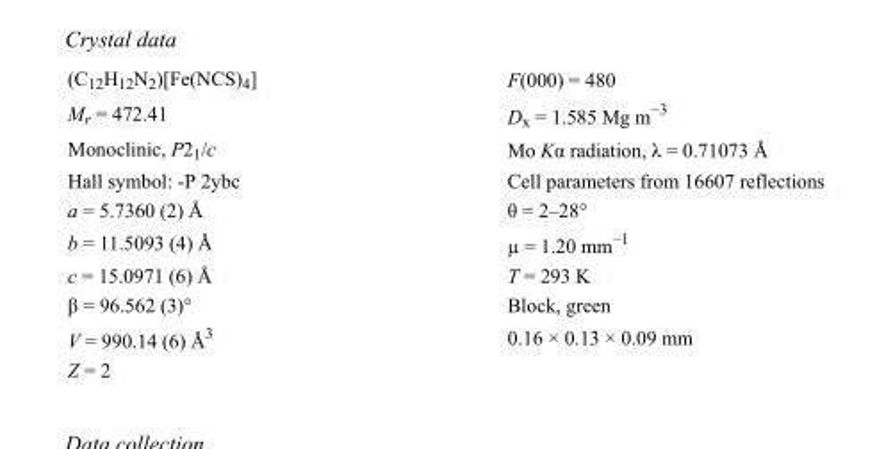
<table><tbody><tr><td>(C<sub>12</sub>H<sub>12</sub>N<sub>2</sub>)[Fe(NCS)<sub>4</sub>]</td><td>F(000) = 480</td></tr><tr><td>M<sub>r</sub> = 472.41</td><td>D<sub>x</sub> = 1.585 Mg m<sup>−3</sup></td></tr><tr><td>Monoclinic, P2<sub>1</sub>/c</td><td>Mo Kα radiation, λ = 0.71073 Å</td></tr><tr><td>Hall symbol: -P 2ybc</td><td>Cell parameters from 16607 reflections</td></tr><tr><td>a = 5.7360 (2) Å</td><td>θ = 2–28°</td></tr><tr><td>b = 11.5093 (4) Å</td><td>µ = 1.20 mm<sup>−1</sup></td></tr><tr><td>c = 15.0971 (6) Å</td><td>T = 293 K</td></tr><tr><td>β = 96.562 (3)°</td><td>Block, green</td></tr><tr><td>V = 990.14 (6) Å<sup>3</sup></td><td>0.16 × 0.13 × 0.09 mm</td></tr><tr><td>Z = 2</td><td></td></tr></tbody></table>